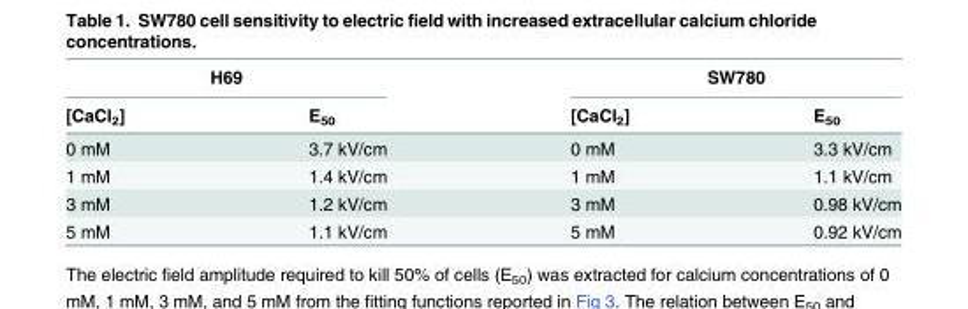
<table><thead><tr><td colspan="2">H69</td><td colspan="2">SW780</td></tr><tr><td>[CaCl<sub>2</sub>]</td><td>E<sub>50</sub></td><td>[CaCl<sub>2</sub>]</td><td>E<sub>50</sub></td></tr></thead><tbody><tr><td>0 mM</td><td>3.7 kV/cm</td><td>0 mM</td><td>3.3 kV/cm</td></tr><tr><td>1 mM</td><td>1.4 kV/cm</td><td>1 mM</td><td>1.1 kV/cm</td></tr><tr><td>3 mM</td><td>1.2 kV/cm</td><td>3 mM</td><td>0.98 kV/cm</td></tr><tr><td>5 mM</td><td>1.1 kV/cm</td><td>5 mM</td><td>0.92 kV/cm</td></tr></tbody></table>